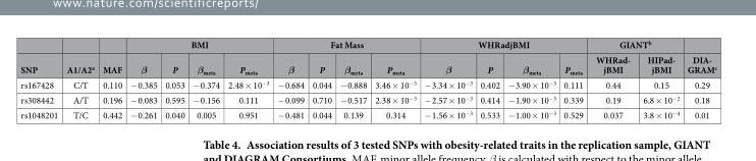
<table><thead><tr><td rowspan="2">SNP</td><td rowspan="2">A1/A2<sup>a</sup></td><td rowspan="2">MAF</td><td colspan="4">BMI</td><td colspan="4">Fat Mass</td><td colspan="4">WHRadjBMI</td><td colspan="2">GIANT<sup>b</sup></td><td rowspan="2">DIA- GRAMc</td></tr><tr><td>β</td><td>P</td><td>β<sub>meta</sub></td><td>P<sub>meta</sub></td><td>β</td><td>P</td><td>β<sub>meta</sub></td><td>P<sub>meta</sub></td><td>β</td><td>P</td><td>β<sub>meta</sub></td><td>P<sub>meta</sub></td><td>WHRad- jBMI</td><td>HIPad- jBMI</td></tr></thead><tbody><tr><td>rs167428</td><td>C/T</td><td>0.110</td><td>− 0.385</td><td>0.053</td><td>− 0.374</td><td>2.48 × 10<sup>−3</sup></td><td>− 0.684</td><td>0.044</td><td>− 0.888</td><td>3.46 × 10<sup>−5</sup></td><td>− 3.34 × 10<sup>−3</sup></td><td>0.402</td><td>− 3.90 × 10<sup>−3</sup></td><td>0.111</td><td>0.44</td><td>0.15</td><td>0.29</td></tr><tr><td>rs308442</td><td>A/T</td><td>0.196</td><td>− 0.083</td><td>0.595</td><td>− 0.156</td><td>0.111</td><td>− 0.099</td><td>0.710</td><td>− 0.517</td><td>2.38 × 10<sup>−3</sup></td><td>− 2.57 × 10<sup>−3</sup></td><td>0.414</td><td>− 1.90 × 10<sup>−3</sup></td><td>0.339</td><td>0.19</td><td>6.8 × 10<sup>−2</sup></td><td>0.18</td></tr><tr><td>rs1048201</td><td>T/C</td><td>0.442</td><td>− 0.261</td><td>0.040</td><td>0.005</td><td>0.951</td><td>− 0.481</td><td>0.044</td><td>0.139</td><td>0.314</td><td>− 1.56 × 10<sup>−3</sup></td><td>0.533</td><td>− 1.00 × 10<sup>−3</sup></td><td>0.529</td><td>0.037</td><td>3.8 × 10<sup>−4</sup></td><td>0.01</td></tr></tbody></table>